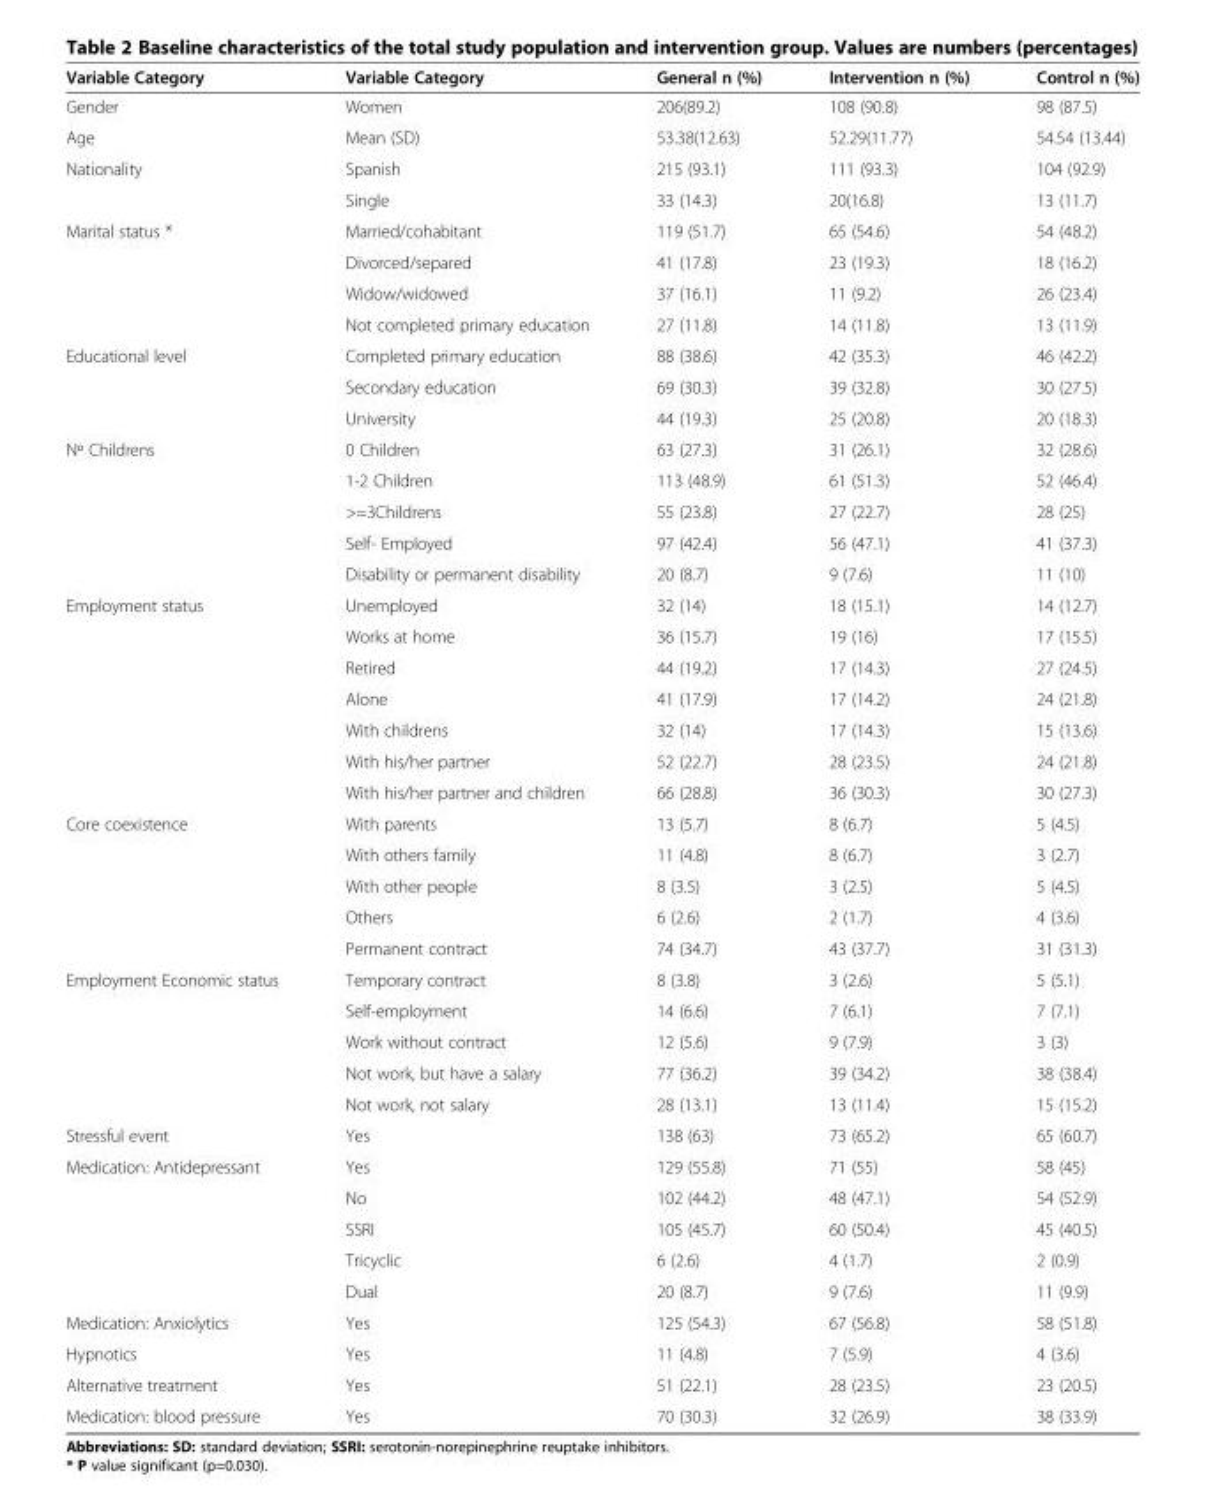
<table><thead><tr><td>Variable Category</td><td>Variable Category</td><td>General n (%)</td><td>Intervention n (%)</td><td>Control n (%)</td></tr></thead><tbody><tr><td>Gender</td><td>Women</td><td>206(89.2)</td><td>108 (90.8)</td><td>98 (87.5)</td></tr><tr><td>Age</td><td>Mean (SD)</td><td>53.38(12.63)</td><td>52.29(11.77)</td><td>54.54 (13.44)</td></tr><tr><td rowspan="2">Nationality</td><td>Spanish</td><td>215 (93.1)</td><td>111 (93.3)</td><td>104 (92.9)</td></tr><tr><td>Single</td><td>33 (14.3)</td><td>20(16.8)</td><td>13 (11.7)</td></tr><tr><td rowspan="4">Marital status *</td><td>Married/cohabitant</td><td>119 (51.7)</td><td>65 (54.6)</td><td>54 (48.2)</td></tr><tr><td>Divorced/separed</td><td>41 (17.8)</td><td>23 (19.3)</td><td>18 (16.2)</td></tr><tr><td>Widow/widowed</td><td>37 (16.1)</td><td>11 (9.2)</td><td>26 (23.4)</td></tr><tr><td>Not completed primary education</td><td>27 (11.8)</td><td>14 (11.8)</td><td>13 (11.9)</td></tr><tr><td rowspan="3">Educational level</td><td>Completed primary education</td><td>88 (38.6)</td><td>42 (35.3)</td><td>46 (42.2)</td></tr><tr><td>Secondary education</td><td>69 (30.3)</td><td>39 (32.8)</td><td>30 (27.5)</td></tr><tr><td>University</td><td>44 (19.3)</td><td>25 (20.8)</td><td>20 (18.3)</td></tr><tr><td rowspan="5">Nº Childrens</td><td>0 Children</td><td>63 (27.3)</td><td>31 (26.1)</td><td>32 (28.6)</td></tr><tr><td>1-2 Children</td><td>113 (48.9)</td><td>61 (51.3)</td><td>52 (46.4)</td></tr><tr><td>&gt;=3Childrens</td><td>55 (23.8)</td><td>27 (22.7)</td><td>28 (25)</td></tr><tr><td>Self- Employed</td><td>97 (42.4)</td><td>56 (47.1)</td><td>41 (37.3)</td></tr><tr><td>Disability or permanent disability</td><td>20 (8.7)</td><td>9 (7.6)</td><td>11 (10)</td></tr><tr><td rowspan="7">Employment status</td><td>Unemployed</td><td>32 (14)</td><td>18 (15.1)</td><td>14 (12.7)</td></tr><tr><td>Works at home</td><td>36 (15.7)</td><td>19 (16)</td><td>17 (15.5)</td></tr><tr><td>Retired</td><td>44 (19.2)</td><td>17 (14.3)</td><td>27 (24.5)</td></tr><tr><td>Alone</td><td>41 (17.9)</td><td>17 (14.2)</td><td>24 (21.8)</td></tr><tr><td>With childrens</td><td>32 (14)</td><td>17 (14.3)</td><td>15 (13.6)</td></tr><tr><td>With his/her partner</td><td>52 (22.7)</td><td>28 (23.5)</td><td>24 (21.8)</td></tr><tr><td>With his/her partner and children</td><td>66 (28.8)</td><td>36 (30.3)</td><td>30 (27.3)</td></tr><tr><td rowspan="5">Core coexistence</td><td>With parents</td><td>13 (5.7)</td><td>8 (6.7)</td><td>5 (4.5)</td></tr><tr><td>With others family</td><td>11 (4.8)</td><td>8 (6.7)</td><td>3 (2.7)</td></tr><tr><td>With other people</td><td>8 (3.5)</td><td>3 (2.5)</td><td>5 (4.5)</td></tr><tr><td>Others</td><td>6 (2.6)</td><td>2 (1.7)</td><td>4 (3.6)</td></tr><tr><td>Permanent contract</td><td>74 (34.7)</td><td>43 (37.7)</td><td>31 (31.3)</td></tr><tr><td rowspan="5">Employment Economic status</td><td>Temporary contract</td><td>8 (3.8)</td><td>3 (2.6)</td><td>5 (5.1)</td></tr><tr><td>Self-employment</td><td>14 (6.6)</td><td>7 (6.1)</td><td>7 (7.1)</td></tr><tr><td>Work without contract</td><td>12 (5.6)</td><td>9 (7.9)</td><td>3 (3)</td></tr><tr><td>Not work, but have a salary</td><td>77 (36.2)</td><td>39 (34.2)</td><td>38 (38.4)</td></tr><tr><td>Not work, not salary</td><td>28 (13.1)</td><td>13 (11.4)</td><td>15 (15.2)</td></tr><tr><td>Stressful event</td><td>Yes</td><td>138 (63)</td><td>73 (65.2)</td><td>65 (60.7)</td></tr><tr><td rowspan="5">Medication: Antidepressant</td><td>Yes</td><td>129 (55.8)</td><td>71 (55)</td><td>58 (45)</td></tr><tr><td>No</td><td>102 (44.2)</td><td>48 (47.1)</td><td>54 (52.9)</td></tr><tr><td>SSRI</td><td>105 (45.7)</td><td>60 (50.4)</td><td>45 (40.5)</td></tr><tr><td>Tricyclic</td><td>6 (2.6)</td><td>4 (1.7)</td><td>2 (0.9)</td></tr><tr><td>Dual</td><td>20 (8.7)</td><td>9 (7.6)</td><td>11 (9.9)</td></tr><tr><td>Medication: Anxiolytics</td><td>Yes</td><td>125 (54.3)</td><td>67 (56.8)</td><td>58 (51.8)</td></tr><tr><td>Hypnotics</td><td>Yes</td><td>11 (4.8)</td><td>7 (5.9)</td><td>4 (3.6)</td></tr><tr><td>Alternative treatment</td><td>Yes</td><td>51 (22.1)</td><td>28 (23.5)</td><td>23 (20.5)</td></tr><tr><td>Medication: blood pressure</td><td>Yes</td><td>70 (30.3)</td><td>32 (26.9)</td><td>38 (33.9)</td></tr></tbody></table>